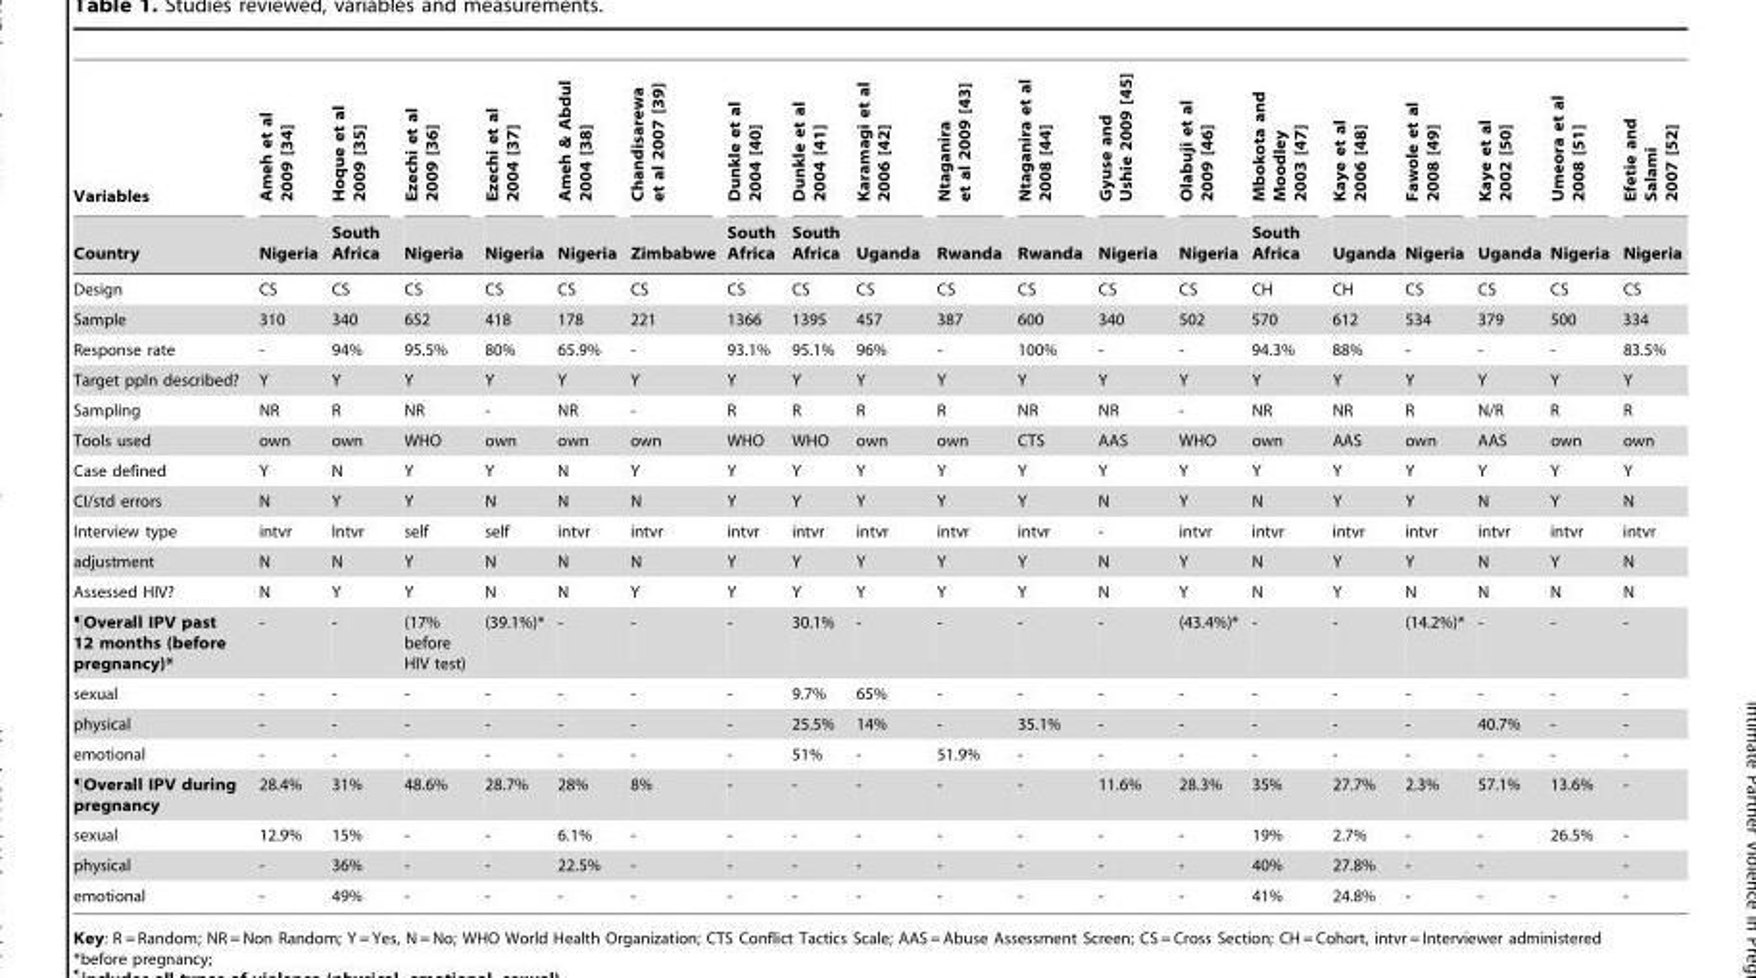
<table><thead><tr><td rowspan="2">Variables Country</td><td rowspan="2">Ameh et al 2009 [34] Nigeria</td><td rowspan="2">Hoque et al 2009 [35] South Africa</td><td rowspan="2">Ezechi et al 2009 [36] Nigeria</td><td rowspan="2">Ezechi et al 2004 [37] Nigeria</td><td rowspan="2">Ameh &amp; Abdul 2004 [38] Nigeria</td><td rowspan="2">Chandisarewa et al 2007 [39] Zimbabwe</td><td rowspan="2">Dunkle et al 2004 [40] South Africa</td><td rowspan="2">Dunkle et al 2004 [41] South Africa</td><td rowspan="2">Karamagi et al 2006 [42] Uganda</td><td rowspan="2">Ntaganira et al 2009 [43] Rwanda</td><td rowspan="2">Ntaganira et al 2008 [44] Rwanda</td><td rowspan="2">Gyuse and Ushie 2009 [45] Nigeria</td><td rowspan="2">Olabuji et al 2009 [46] Nigeria</td><td rowspan="2">Mbokota and Moodley 2003 [47] South Africa</td><td rowspan="2">Kaye et al 2006 [48] Uganda</td><td rowspan="2">Fawole et al 2008 [49] Nigeria</td><td rowspan="2">Kaye et al 2002 [50] Uganda</td><td rowspan="2">Umeora et al 2008 [51] Nigeria</td><td rowspan="2">Efetie and Salami 2007 [52] Nigeria</td></tr><tr></tr></thead><tbody><tr><td>Design</td><td>CS</td><td>CS</td><td>CS</td><td>CS</td><td>CS</td><td>CS</td><td>CS</td><td>CS</td><td>CS</td><td>CS</td><td>CS</td><td>CS</td><td>CS</td><td>CH</td><td>CH</td><td>CS</td><td>CS</td><td>CS</td><td>CS</td></tr><tr><td>Sample</td><td>310</td><td>340</td><td>652</td><td>418</td><td>178</td><td>221</td><td>1366</td><td>1395</td><td>457</td><td>387</td><td>600</td><td>340</td><td>502</td><td>570</td><td>612</td><td>534</td><td>379</td><td>500</td><td>334</td></tr><tr><td>Response rate</td><td>-</td><td>94%</td><td>95.5%</td><td>80%</td><td>65.9%</td><td>-</td><td>93.1%</td><td>95.1%</td><td>96%</td><td>-</td><td>100%</td><td>-</td><td>-</td><td>94.3%</td><td>88%</td><td>-</td><td>-</td><td>-</td><td>83.5%</td></tr><tr><td>Target ppln described?</td><td>Y</td><td>Y</td><td>Y</td><td>Y</td><td>Y</td><td>Y</td><td>Y</td><td>Y</td><td>Y</td><td>Y</td><td>Y</td><td>Y</td><td>Y</td><td>Y</td><td>Y</td><td>Y</td><td>Y</td><td>Y</td><td>Y</td></tr><tr><td>Sampling</td><td>NR</td><td>R</td><td>NR</td><td>-</td><td>NR</td><td>-</td><td>R</td><td>R</td><td>R</td><td>R</td><td>NR</td><td>NR</td><td>-</td><td>NR</td><td>NR</td><td>R</td><td>N/R</td><td>R</td><td>R</td></tr><tr><td>Tools used</td><td>own</td><td>own</td><td>WHO</td><td>own</td><td>own</td><td>own</td><td>WHO</td><td>WHO</td><td>own</td><td>own</td><td>CTS</td><td>AAS</td><td>WHO</td><td>own</td><td>AAS</td><td>own</td><td>AAS</td><td>own</td><td>own</td></tr><tr><td>Case defined</td><td>Y</td><td>N</td><td>Y</td><td>Y</td><td>N</td><td>Y</td><td>Y</td><td>Y</td><td>Y</td><td>Y</td><td>Y</td><td>Y</td><td>Y</td><td>Y</td><td>Y</td><td>Y</td><td>Y</td><td>Y</td><td>Y</td></tr><tr><td>CI/std errors</td><td>N</td><td>Y</td><td>Y</td><td>N</td><td>N</td><td>N</td><td>Y</td><td>Y</td><td>Y</td><td>Y</td><td>Y</td><td>N</td><td>Y</td><td>N</td><td>Y</td><td>Y</td><td>N</td><td>Y</td><td>N</td></tr><tr><td>Interview type</td><td>intvr</td><td>Intvr</td><td>self</td><td>self</td><td>intvr</td><td>intvr</td><td>intvr</td><td>intvr</td><td>intvr</td><td>intvr</td><td>intvr</td><td>-</td><td>intvr</td><td>intvr</td><td>intvr</td><td>intvr</td><td>intvr</td><td>intvr</td><td>intvr</td></tr><tr><td>adjustment</td><td>N</td><td>N</td><td>Y</td><td>N</td><td>N</td><td>N</td><td>Y</td><td>Y</td><td>Y</td><td>Y</td><td>Y</td><td>N</td><td>Y</td><td>N</td><td>Y</td><td>Y</td><td>N</td><td>Y</td><td>N</td></tr><tr><td>Assessed HIV?</td><td>N</td><td>Y</td><td>Y</td><td>N</td><td>N</td><td>Y</td><td>Y</td><td>Y</td><td>Y</td><td>Y</td><td>Y</td><td>N</td><td>Y</td><td>N</td><td>Y</td><td>N</td><td>N</td><td>N</td><td>N</td></tr><tr><td>¶Overall IPV past 12 months (before pregnancy)*</td><td>-</td><td>-</td><td>(17% before HIV test)</td><td>(39.1%)*</td><td>-</td><td>-</td><td>-</td><td>30.1%</td><td>-</td><td>-</td><td>-</td><td>-</td><td>(43.4%)*</td><td>-</td><td>-</td><td>(14.2%)*</td><td>-</td><td>-</td><td>-</td></tr><tr><td>sexual</td><td>-</td><td>-</td><td>-</td><td>-</td><td>-</td><td>-</td><td>-</td><td>9.7%</td><td>65%</td><td>-</td><td>-</td><td>-</td><td>-</td><td>-</td><td>-</td><td>-</td><td>-</td><td>-</td><td>-</td></tr><tr><td>physical</td><td>-</td><td>-</td><td>-</td><td>-</td><td>-</td><td>-</td><td>-</td><td>25.5%</td><td>14%</td><td>-</td><td>35.1%</td><td>-</td><td>-</td><td>-</td><td>-</td><td>-</td><td>40.7%</td><td>-</td><td>-</td></tr><tr><td>emotional</td><td>-</td><td>-</td><td>-</td><td>-</td><td>-</td><td>-</td><td>-</td><td>51%</td><td>-</td><td>51.9%</td><td>-</td><td>-</td><td>-</td><td>-</td><td>-</td><td>-</td><td>-</td><td>-</td><td>-</td></tr><tr><td>¶Overall IPV during pregnancy</td><td>28.4%</td><td>31%</td><td>48.6%</td><td>28.7%</td><td>28%</td><td>8%</td><td>-</td><td>-</td><td>-</td><td>-</td><td>-</td><td>11.6%</td><td>28.3%</td><td>35%</td><td>27.7%</td><td>2.3%</td><td>57.1%</td><td>13.6%</td><td>-</td></tr><tr><td>sexual</td><td>12.9%</td><td>15%</td><td>-</td><td>-</td><td>6.1%</td><td>-</td><td>-</td><td>-</td><td>-</td><td>-</td><td>-</td><td>-</td><td>-</td><td>19%</td><td>2.7%</td><td>-</td><td>-</td><td>26.5%</td><td>-</td></tr><tr><td>physical</td><td>-</td><td>36%</td><td>-</td><td>-</td><td>22.5%</td><td>-</td><td>-</td><td>-</td><td>-</td><td>-</td><td>-</td><td>-</td><td>-</td><td>40%</td><td>27.8%</td><td>-</td><td>-</td><td></td><td>-</td></tr><tr><td>emotional</td><td>-</td><td>49%</td><td>-</td><td>-</td><td>-</td><td>-</td><td>-</td><td>-</td><td>-</td><td>-</td><td>-</td><td>-</td><td>-</td><td>41%</td><td>24.8%</td><td>-</td><td>-</td><td>-</td><td>-</td></tr></tbody></table>